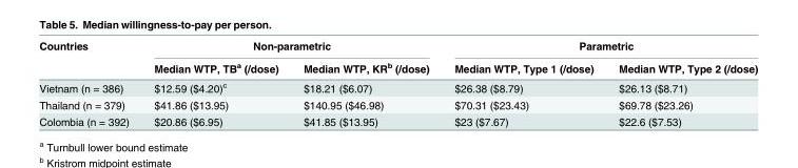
<table><thead><tr><td rowspan="2">Countries</td><td colspan="2">Non-parametric</td><td colspan="2">Parametric</td></tr><tr><td>Median WTP, TB<sup>a</sup> (/dose)</td><td>Median WTP, KR<sup>b</sup> (/dose)</td><td>Median WTP, Type 1 (/dose)</td><td>Median WTP, Type 2 (/dose)</td></tr></thead><tbody><tr><td>Vietnam (n = 386)</td><td>$12.59 ($4.20)<sup>c</sup></td><td>$18.21 ($6.07)</td><td>$26.38 ($8.79)</td><td>$26.13 ($8.71)</td></tr><tr><td>Thailand (n = 379)</td><td>$41.86 ($13.95)</td><td>$140.95 ($46.98)</td><td>$70.31 ($23.43)</td><td>$69.78 ($23.26)</td></tr><tr><td>Colombia (n = 392)</td><td>$20.86 ($6.95)</td><td>$41.85 ($13.95)</td><td>$23 ($7.67)</td><td>$22.6 ($7.53)</td></tr></tbody></table>